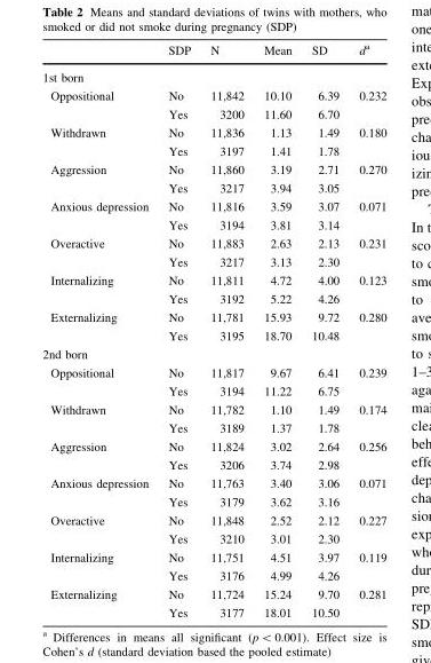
<table><thead><tr><td></td><td>SDP</td><td>N</td><td>Mean</td><td>SD</td><td>d<sup>a</sup></td></tr></thead><tbody><tr><td colspan="6">1st born</td></tr><tr><td rowspan="2">Oppositional</td><td>No</td><td>11,842</td><td>10.10</td><td>6.39</td><td>0.232</td></tr><tr><td>Yes</td><td>3200</td><td>11.60</td><td>6.70</td><td></td></tr><tr><td rowspan="2">Withdrawn</td><td>No</td><td>11,836</td><td>1.13</td><td>1.49</td><td>0.180</td></tr><tr><td>Yes</td><td>3197</td><td>1.41</td><td>1.78</td><td></td></tr><tr><td rowspan="2">Aggression</td><td>No</td><td>11,860</td><td>3.19</td><td>2.71</td><td>0.270</td></tr><tr><td>Yes</td><td>3217</td><td>3.94</td><td>3.05</td><td></td></tr><tr><td rowspan="2">Anxious depression</td><td>No</td><td>11,816</td><td>3.59</td><td>3.07</td><td>0.071</td></tr><tr><td>Yes</td><td>3194</td><td>3.81</td><td>3.14</td><td></td></tr><tr><td rowspan="2">Overactive</td><td>No</td><td>11,883</td><td>2.63</td><td>2.13</td><td>0.231</td></tr><tr><td>Yes</td><td>3217</td><td>3.13</td><td>2.30</td><td></td></tr><tr><td rowspan="2">Internalizing</td><td>No</td><td>11,811</td><td>4.72</td><td>4.00</td><td>0.123</td></tr><tr><td>Yes</td><td>3192</td><td>5.22</td><td>4.26</td><td></td></tr><tr><td rowspan="2">Externalizing</td><td>No</td><td>11,781</td><td>15.93</td><td>9.72</td><td>0.280</td></tr><tr><td>Yes</td><td>3195</td><td>18.70</td><td>10.48</td><td></td></tr><tr><td colspan="6">2nd born</td></tr><tr><td rowspan="2">Oppositional</td><td>No</td><td>11,817</td><td>9.67</td><td>6.41</td><td>0.239</td></tr><tr><td>Yes</td><td>3194</td><td>11.22</td><td>6.75</td><td></td></tr><tr><td rowspan="2">Withdrawn</td><td>No</td><td>11,782</td><td>1.10</td><td>1.49</td><td>0.174</td></tr><tr><td>Yes</td><td>3189</td><td>1.37</td><td>1.78</td><td></td></tr><tr><td rowspan="2">Aggression</td><td>No</td><td>11,824</td><td>3.02</td><td>2.64</td><td>0.256</td></tr><tr><td>Yes</td><td>3206</td><td>3.74</td><td>2.98</td><td></td></tr><tr><td rowspan="2">Anxious depression</td><td>No</td><td>11,763</td><td>3.40</td><td>3.06</td><td>0.071</td></tr><tr><td>Yes</td><td>3179</td><td>3.62</td><td>3.16</td><td></td></tr><tr><td rowspan="2">Overactive</td><td>No</td><td>11,848</td><td>2.52</td><td>2.12</td><td>0.227</td></tr><tr><td>Yes</td><td>3210</td><td>3.01</td><td>2.30</td><td></td></tr><tr><td rowspan="2">Internalizing</td><td>No</td><td>11,751</td><td>4.51</td><td>3.97</td><td>0.119</td></tr><tr><td>Yes</td><td>3176</td><td>4.99</td><td>4.26</td><td></td></tr><tr><td rowspan="2">Externalizing</td><td>No</td><td>11,724</td><td>15.24</td><td>9.70</td><td>0.281</td></tr><tr><td>Yes</td><td>3177</td><td>18.01</td><td>10.50</td><td></td></tr></tbody></table>